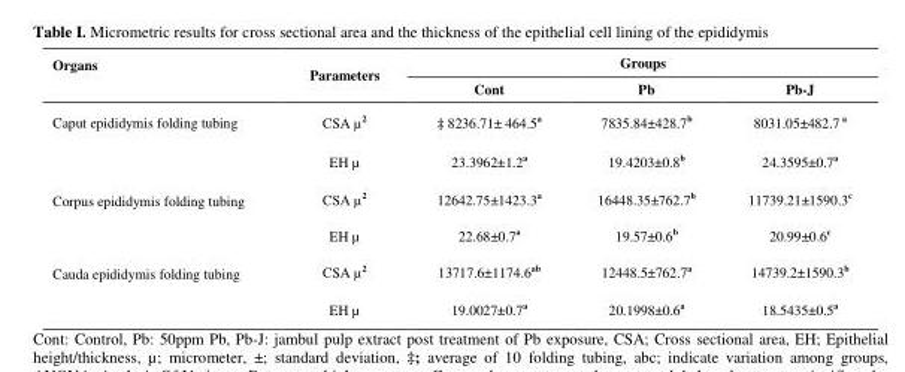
<table><thead><tr><td rowspan="2">Organs</td><td rowspan="2">Parameters</td><td colspan="3">Groups</td></tr><tr><td>Cont</td><td>Pb</td><td>Pb-J</td></tr></thead><tbody><tr><td rowspan="2">Caput epididymis folding tubing</td><td>CSA µ<sup>2</sup></td><td>‡ 8236.71± 464.5<sup>a</sup></td><td>7835.84±428.7<sup>b</sup></td><td>8031.05±482.7 a</td></tr><tr><td>EH µ</td><td>23.3962±1.2<sup>a</sup></td><td>19.4203±0.8<sup>b</sup></td><td>24.3595±0.7<sup>a</sup></td></tr><tr><td rowspan="2">Corpus epididymis folding tubing</td><td>CSA µ<sup>2</sup></td><td>12642.75±1423.3<sup>a</sup></td><td>16448.35±762.7<sup>b</sup></td><td>11739.21±1590.3<sup>c</sup></td></tr><tr><td>EH µ</td><td>22.68±0.7<sup>a</sup></td><td>19.57±0.6<sup>b</sup></td><td>20.99±0.6<sup>c</sup></td></tr><tr><td rowspan="2">Cauda epididymis folding tubing</td><td>CSA µ<sup>2</sup></td><td>13717.6±1174.6<sup>ab</sup></td><td>12448.5±762.7<sup>a</sup></td><td>14739.2±1590.3<sup>b</sup></td></tr><tr><td>EH µ</td><td>19.0027±0.7<sup>a</sup></td><td>20.1998±0.6<sup>a</sup></td><td>18.5435±0.5<sup>a</sup></td></tr></tbody></table>